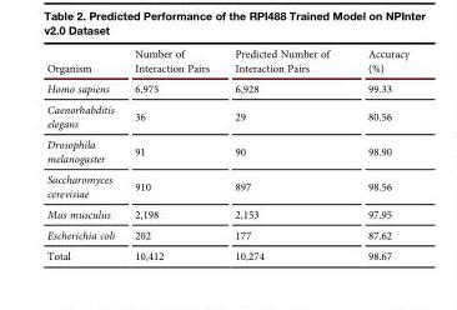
<table><thead><tr><td>Organism</td><td>Number of Interaction Pairs</td><td>Predicted Number of Interaction Pairs</td><td>Accuracy (%)</td></tr></thead><tbody><tr><td>Homo sapiens</td><td>6,975</td><td>6,928</td><td>99.33</td></tr><tr><td>Caenorhabditis elegans</td><td>36</td><td>29</td><td>80.56</td></tr><tr><td>Drosophila melanogaster</td><td>91</td><td>90</td><td>98.90</td></tr><tr><td>Saccharomyces cerevisiae</td><td>910</td><td>897</td><td>98.56</td></tr><tr><td>Mus musculus</td><td>2,198</td><td>2,153</td><td>97.95</td></tr><tr><td>Escherichia coli</td><td>202</td><td>177</td><td>87.62</td></tr><tr><td>Total</td><td>10,412</td><td>10,274</td><td>98.67</td></tr></tbody></table>